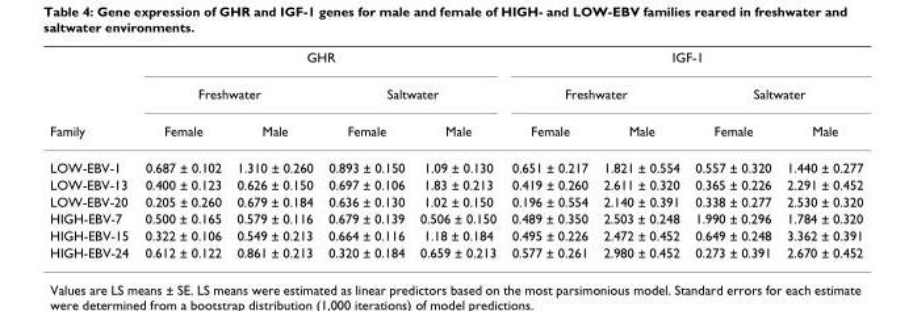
<table><thead><tr><td rowspan="3">Family</td><td colspan="4">GHR</td><td colspan="4">IGF-1</td></tr><tr><td colspan="2">Freshwater</td><td colspan="2">Saltwater</td><td colspan="2">Freshwater</td><td colspan="2">Saltwater</td></tr><tr><td>Female</td><td>Male</td><td>Female</td><td>Male</td><td>Female</td><td>Male</td><td>Female</td><td>Male</td></tr></thead><tbody><tr><td>LOW-EBV-1</td><td>0.687 ± 0.102</td><td>1.310 ± 0.260</td><td>0.893 ± 0.150</td><td>1.09 ± 0.130</td><td>0.651 ± 0.217</td><td>1.821 ± 0.554</td><td>0.557 ± 0.320</td><td>1.440 ± 0.277</td></tr><tr><td>LOW-EBV-13</td><td>0.400 ± 0.123</td><td>0.626 ± 0.150</td><td>0.697 ± 0.106</td><td>1.83 ± 0.213</td><td>0.419 ± 0.260</td><td>2.611 ± 0.320</td><td>0.365 ± 0.226</td><td>2.291 ± 0.452</td></tr><tr><td>LOW-EBV-20</td><td>0.205 ± 0.260</td><td>0.679 ± 0.184</td><td>0.636 ± 0.130</td><td>1.02 ± 0.150</td><td>0.196 ± 0.554</td><td>2.140 ± 0.391</td><td>0.338 ± 0.277</td><td>2.530 ± 0.320</td></tr><tr><td>HIGH-EBV-7</td><td>0.500 ± 0.165</td><td>0.579 ± 0.116</td><td>0.679 ± 0.139</td><td>0.506 ± 0.150</td><td>0.489 ± 0.350</td><td>2.503 ± 0.248</td><td>1.990 ± 0.296</td><td>1.784 ± 0.320</td></tr><tr><td>HIGH-EBV-15</td><td>0.322 ± 0.106</td><td>0.549 ± 0.213</td><td>0.664 ± 0.116</td><td>1.18 ± 0.184</td><td>0.495 ± 0.226</td><td>2.472 ± 0.452</td><td>0.649 ± 0.248</td><td>3.362 ± 0.391</td></tr><tr><td>HIGH-EBV-24</td><td>0.612 ± 0.122</td><td>0.861 ± 0.213</td><td>0.320 ± 0.184</td><td>0.659 ± 0.213</td><td>0.577 ± 0.261</td><td>2.980 ± 0.452</td><td>0.273 ± 0.391</td><td>2.670 ± 0.452</td></tr></tbody></table>